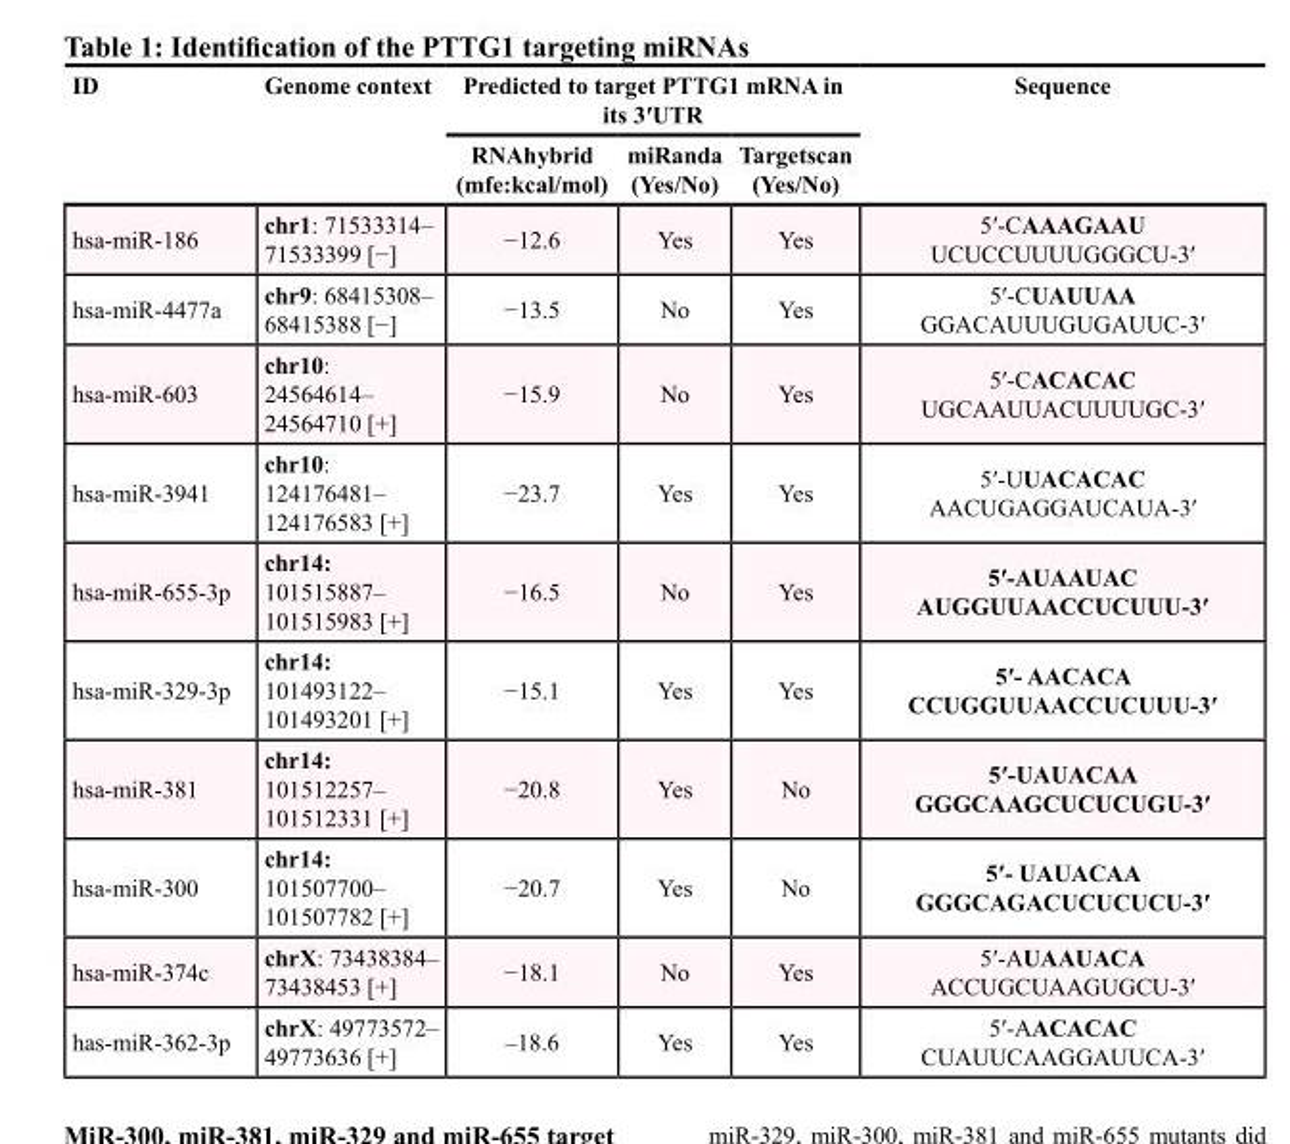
<table><thead><tr><td rowspan="2">ID</td><td rowspan="2">Genome context</td><td colspan="3">Predicted to target PTTG1 mRNA in its 3′UTR</td><td rowspan="2">Sequence</td></tr><tr><td>RNAhybrid (mfe:kcal/mol)</td><td>miRanda (Yes/No)</td><td>Targetscan (Yes/No)</td></tr></thead><tbody><tr><td>hsa-miR-186</td><td>chr1: 71533314– 71533399 [−]</td><td>−12.6</td><td>Yes</td><td>Yes</td><td>5′-CAAAGAAU UCUCCUUUUGGGCU-3′</td></tr><tr><td>hsa-miR-4477a</td><td>chr9: 68415308– 68415388 [−]</td><td>−13.5</td><td>No</td><td>Yes</td><td>5′-CUAUUAA GGACAUUUGUGAUUC-3′</td></tr><tr><td>hsa-miR-603</td><td>chr10: 24564614– 24564710 [+]</td><td>−15.9</td><td>No</td><td>Yes</td><td>5′-CACACAC UGCAAUUACUUUUGC-3′</td></tr><tr><td>hsa-miR-3941</td><td>chr10: 124176481– 124176583 [+]</td><td>−23.7</td><td>Yes</td><td>Yes</td><td>5′-UUACACAC AACUGAGGAUCAUA-3′</td></tr><tr><td>hsa-miR-655-3p</td><td>chr14: 101515887– 101515983 [+]</td><td>−16.5</td><td>No</td><td>Yes</td><td>5′-AUAAUAC AUGGUUAACCUCUUU-3′</td></tr><tr><td>hsa-miR-329-3p</td><td>chr14: 101493122– 101493201 [+]</td><td>−15.1</td><td>Yes</td><td>Yes</td><td>5′- AACACA CCUGGUUAACCUCUUU-3′</td></tr><tr><td>hsa-miR-381</td><td>chr14: 101512257– 101512331 [+]</td><td>−20.8</td><td>Yes</td><td>No</td><td>5′-UAUACAA GGGCAAGCUCUCUGU-3′</td></tr><tr><td>hsa-miR-300</td><td>chr14: 101507700– 101507782 [+]</td><td>−20.7</td><td>Yes</td><td>No</td><td>5′- UAUACAA GGGCAGACUCUCUCU-3′</td></tr><tr><td>hsa-miR-374c</td><td>chrX: 73438384– 73438453 [+]</td><td>−18.1</td><td>No</td><td>Yes</td><td>5′-AUAAUACA ACCUGCUAAGUGCU-3′</td></tr><tr><td>has-miR-362-3p</td><td>chrX: 49773572– 49773636 [+]</td><td>–18.6</td><td>Yes</td><td>Yes</td><td>5′-AACACAC CUAUUCAAGGAUUCA-3′</td></tr></tbody></table>